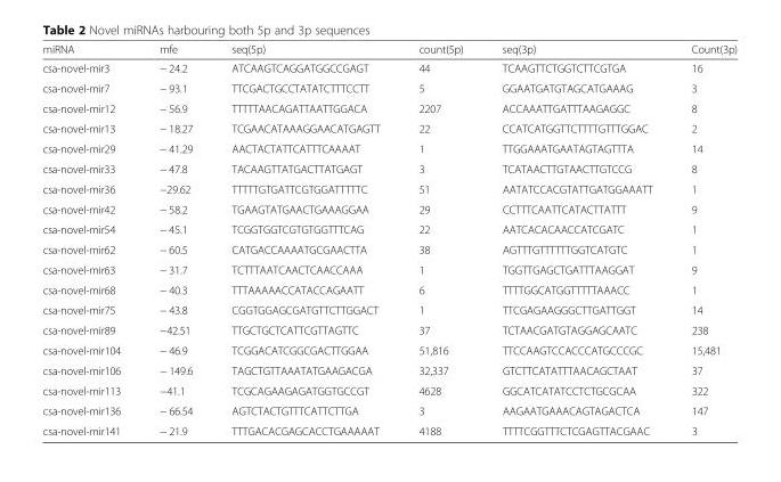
<table><thead><tr><td>miRNA</td><td>mfe</td><td>seq(5p)</td><td>count(5p)</td><td>seq(3p)</td><td>Count(3p)</td></tr></thead><tbody><tr><td>csa-novel-mir3</td><td>− 24.2</td><td>ATCAAGTCAGGATGGCCGAGT</td><td>44</td><td>TCAAGTTCTGGTCTTCGTGA</td><td>16</td></tr><tr><td>csa-novel-mir7</td><td>− 93.1</td><td>TTCGACTGCCTATATCTTTCCTT</td><td>5</td><td>GGAATGATGTAGCATGAAAG</td><td>3</td></tr><tr><td>csa-novel-mir12</td><td>− 56.9</td><td>TTTTTAACAGATTAATTGGACA</td><td>2207</td><td>ACCAAATTGATTTAAGAGGC</td><td>8</td></tr><tr><td>csa-novel-mir13</td><td>− 18.27</td><td>TCGAACATAAAGGAACATGAGTT</td><td>22</td><td>CCATCATGGTTCTTTTGTTTGGAC</td><td>2</td></tr><tr><td>csa-novel-mir29</td><td>− 41.29</td><td>AACTACTATTCATTTCAAAAT</td><td>1</td><td>TTGGAAATGAATAGTAGTTTA</td><td>14</td></tr><tr><td>csa-novel-mir33</td><td>− 47.8</td><td>TACAAGTTATGACTTATGAGT</td><td>3</td><td>TCATAACTTGTAACTTGTCCG</td><td>8</td></tr><tr><td>csa-novel-mir36</td><td>−29.62</td><td>TTTTTGTGATTCGTGGATTTTTC</td><td>51</td><td>AATATCCACGTATTGATGGAAATT</td><td>1</td></tr><tr><td>csa-novel-mir42</td><td>− 58.2</td><td>TGAAGTATGAACTGAAAGGAA</td><td>29</td><td>CCTTTCAATTCATACTTATTT</td><td>9</td></tr><tr><td>csa-novel-mir54</td><td>− 45.1</td><td>TCGGTGGTCGTGTGGTTTCAG</td><td>22</td><td>AATCACACAACCATCGATC</td><td>1</td></tr><tr><td>csa-novel-mir62</td><td>− 60.5</td><td>CATGACCAAAATGCGAACTTA</td><td>38</td><td>AGTTTGTTTTTTGGTCATGTC</td><td>1</td></tr><tr><td>csa-novel-mir63</td><td>− 31.7</td><td>TCTTTAATCAACTCAACCAAA</td><td>1</td><td>TGGTTGAGCTGATTTAAGGAT</td><td>9</td></tr><tr><td>csa-novel-mir68</td><td>− 40.3</td><td>TTTAAAAACCATACCAGAATT</td><td>6</td><td>TTTTGGCATGGTTTTTAAACC</td><td>1</td></tr><tr><td>csa-novel-mir75</td><td>− 43.8</td><td>CGGTGGAGCGATGTTCTTGGACT</td><td>1</td><td>TTCGAGAAGGGCTTGATTGGT</td><td>14</td></tr><tr><td>csa-novel-mir89</td><td>−42.51</td><td>TTGCTGCTCATTCGTTAGTTC</td><td>37</td><td>TCTAACGATGTAGGAGCAATC</td><td>238</td></tr><tr><td>csa-novel-mir104</td><td>− 46.9</td><td>TCGGACATCGGCGACTTGGAA</td><td>51,816</td><td>TTCCAAGTCCACCCATGCCCGC</td><td>15,481</td></tr><tr><td>csa-novel-mir106</td><td>− 149.6</td><td>TAGCTGTTAAATATGAAGACGA</td><td>32,337</td><td>GTCTTCATATTTAACAGCTAAT</td><td>37</td></tr><tr><td>csa-novel-mir113</td><td>−41.1</td><td>TCGCAGAAGAGATGGTGCCGT</td><td>4628</td><td>GGCATCATATCCTCTGCGCAA</td><td>322</td></tr><tr><td>csa-novel-mir136</td><td>− 66.54</td><td>AGTCTACTGTTTCATTCTTGA</td><td>3</td><td>AAGAATGAAACAGTAGACTCA</td><td>147</td></tr><tr><td>csa-novel-mir141</td><td>− 21.9</td><td>TTTGACACGAGCACCTGAAAAAT</td><td>4188</td><td>TTTTCGGTTTCTCGAGTTACGAAC</td><td>3</td></tr></tbody></table>